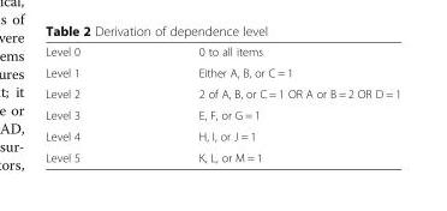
<table><tbody><tr><td>Level 0</td><td>0 to all items</td></tr><tr><td>Level 1</td><td>Either A, B, or C = 1</td></tr><tr><td>Level 2</td><td>2 of A, B, or C = 1 OR A or B = 2 OR D = 1</td></tr><tr><td>Level 3</td><td>E, F, or G = 1</td></tr><tr><td>Level 4</td><td>H, I, or J = 1</td></tr><tr><td>Level 5</td><td>K, L, or M = 1</td></tr></tbody></table>